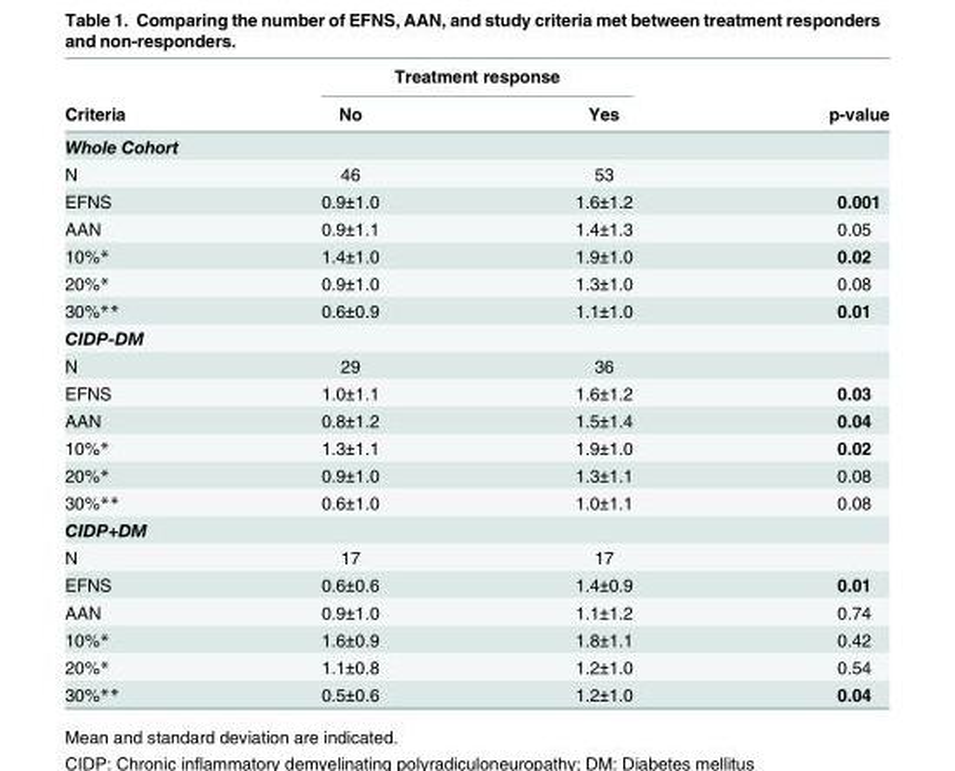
<table><thead><tr><td rowspan="2">Criteria</td><td colspan="2">Treatment response</td><td rowspan="2">p-value</td></tr><tr><td>No</td><td>Yes</td></tr></thead><tbody><tr><td colspan="4">Whole Cohort</td></tr><tr><td>N</td><td>46</td><td>53</td><td></td></tr><tr><td>EFNS</td><td>0.9±1.0</td><td>1.6±1.2</td><td>0.001</td></tr><tr><td>AAN</td><td>0.9±1.1</td><td>1.4±1.3</td><td>0.05</td></tr><tr><td>10%*</td><td>1.4±1.0</td><td>1.9±1.0</td><td>0.02</td></tr><tr><td>20%*</td><td>0.9±1.0</td><td>1.3±1.0</td><td>0.08</td></tr><tr><td>30%**</td><td>0.6±0.9</td><td>1.1±1.0</td><td>0.01</td></tr><tr><td colspan="4">CIDP-DM</td></tr><tr><td>N</td><td>29</td><td>36</td><td></td></tr><tr><td>EFNS</td><td>1.0±1.1</td><td>1.6±1.2</td><td>0.03</td></tr><tr><td>AAN</td><td>0.8±1.2</td><td>1.5±1.4</td><td>0.04</td></tr><tr><td>10%*</td><td>1.3±1.1</td><td>1.9±1.0</td><td>0.02</td></tr><tr><td>20%*</td><td>0.9±1.0</td><td>1.3±1.1</td><td>0.08</td></tr><tr><td>30%**</td><td>0.6±1.0</td><td>1.0±1.1</td><td>0.08</td></tr><tr><td colspan="4">CIDP+DM</td></tr><tr><td>N</td><td>17</td><td>17</td><td></td></tr><tr><td>EFNS</td><td>0.6±0.6</td><td>1.4±0.9</td><td>0.01</td></tr><tr><td>AAN</td><td>0.9±1.0</td><td>1.1±1.2</td><td>0.74</td></tr><tr><td>10%*</td><td>1.6±0.9</td><td>1.8±1.1</td><td>0.42</td></tr><tr><td>20%*</td><td>1.1±0.8</td><td>1.2±1.0</td><td>0.54</td></tr><tr><td>30%**</td><td>0.5±0.6</td><td>1.2±1.0</td><td>0.04</td></tr></tbody></table>